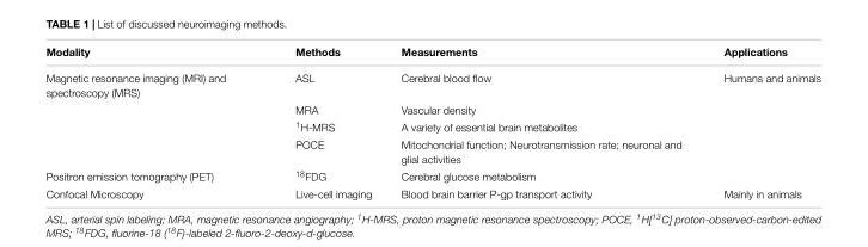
<table><thead><tr><td>Modality</td><td>Methods</td><td>Measurements</td><td>Applications</td></tr></thead><tbody><tr><td rowspan="4">Magnetic resonance imaging (MRI) and spectroscopy (MRS)</td><td>ASL</td><td>Cerebral blood flow</td><td>Humans and animals</td></tr><tr><td>MRA</td><td>Vascular density</td><td></td></tr><tr><td><sup>1</sup>H-MRS</td><td>A variety of essential brain metabolites</td><td></td></tr><tr><td>POCE</td><td>Mitochondrial function; Neurotransmission rate; neuronal and glial activities</td><td></td></tr><tr><td>Positron emission tomography (PET)</td><td><sup>18</sup>FDG</td><td>Cerebral glucose metabolism</td><td></td></tr><tr><td>Confocal Microscopy</td><td>Live-cell imaging</td><td>Blood brain barrier P-gp transport activity</td><td>Mainly in animals</td></tr></tbody></table>